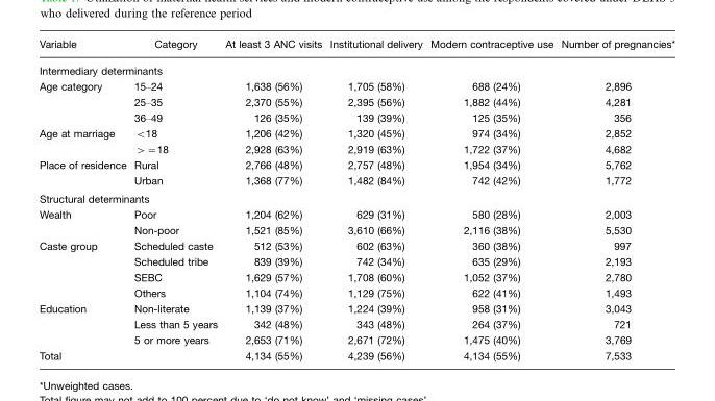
<table><thead><tr><td>Variable</td><td>Category</td><td>At least 3 ANC visits</td><td>Institutional delivery</td><td>Modern contraceptive use</td><td>Number of pregnancies*</td></tr></thead><tbody><tr><td colspan="6">Intermediary determinants</td></tr><tr><td rowspan="3">Age category</td><td>15–24</td><td>1,638 (56%)</td><td>1,705 (58%)</td><td>688 (24%)</td><td>2,896</td></tr><tr><td>25–35</td><td>2,370 (55%)</td><td>2,395 (56%)</td><td>1,882 (44%)</td><td>4,281</td></tr><tr><td>36–49</td><td>126 (35%)</td><td>139 (39%)</td><td>125 (35%)</td><td>356</td></tr><tr><td rowspan="2">Age at marriage</td><td>&lt;18</td><td>1,206 (42%)</td><td>1,320 (45%)</td><td>974 (34%)</td><td>2,852</td></tr><tr><td>&gt;=18</td><td>2,928 (63%)</td><td>2,919 (63%)</td><td>1,722 (37%)</td><td>4,682</td></tr><tr><td rowspan="2">Place of residence</td><td>Rural</td><td>2,766 (48%)</td><td>2,757 (48%)</td><td>1,954 (34%)</td><td>5,762</td></tr><tr><td>Urban</td><td>1,368 (77%)</td><td>1,482 (84%)</td><td>742 (42%)</td><td>1,772</td></tr><tr><td colspan="6">Structural determinants</td></tr><tr><td rowspan="2">Wealth</td><td>Poor</td><td>1,204 (62%)</td><td>629 (31%)</td><td>580 (28%)</td><td>2,003</td></tr><tr><td>Non-poor</td><td>1,521 (85%)</td><td>3,610 (66%)</td><td>2,116 (38%)</td><td>5,530</td></tr><tr><td rowspan="4">Caste group</td><td>Scheduled caste</td><td>512 (53%)</td><td>602 (63%)</td><td>360 (38%)</td><td>997</td></tr><tr><td>Scheduled tribe</td><td>839 (39%)</td><td>742 (34%)</td><td>635 (29%)</td><td>2,193</td></tr><tr><td>SEBC</td><td>1,629 (57%)</td><td>1,708 (60%)</td><td>1,052 (37%)</td><td>2,780</td></tr><tr><td>Others</td><td>1,104 (74%)</td><td>1,129 (75%)</td><td>622 (41%)</td><td>1,493</td></tr><tr><td rowspan="3">Education</td><td>Non-literate</td><td>1,139 (37%)</td><td>1,224 (39%)</td><td>958 (31%)</td><td>3,043</td></tr><tr><td>Less than 5 years</td><td>342 (48%)</td><td>343 (48%)</td><td>264 (37%)</td><td>721</td></tr><tr><td>5 or more years</td><td>2,653 (71%)</td><td>2,671 (72%)</td><td>1,475 (40%)</td><td>3,769</td></tr><tr><td>Total</td><td></td><td>4,134 (55%)</td><td>4,239 (56%)</td><td>4,134 (55%)</td><td>7,533</td></tr></tbody></table>